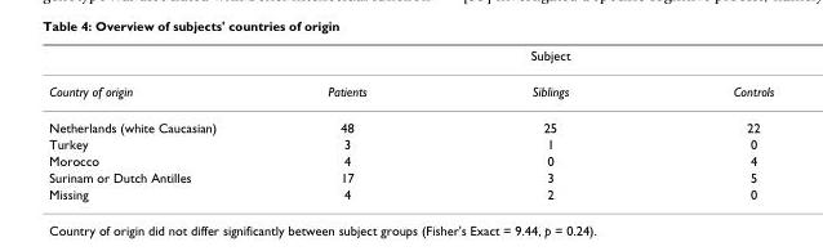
<table><thead><tr><td rowspan="2">Country of origin</td><td colspan="3">Subject</td></tr><tr><td>Patients</td><td>Siblings</td><td>Controls</td></tr></thead><tbody><tr><td>Netherlands (white Caucasian)</td><td>48</td><td>25</td><td>22</td></tr><tr><td>Turkey</td><td>3</td><td>1</td><td>0</td></tr><tr><td>Morocco</td><td>4</td><td>0</td><td>4</td></tr><tr><td>Surinam or Dutch Antilles</td><td>17</td><td>3</td><td>5</td></tr><tr><td>Missing</td><td>4</td><td>2</td><td>0</td></tr></tbody></table>